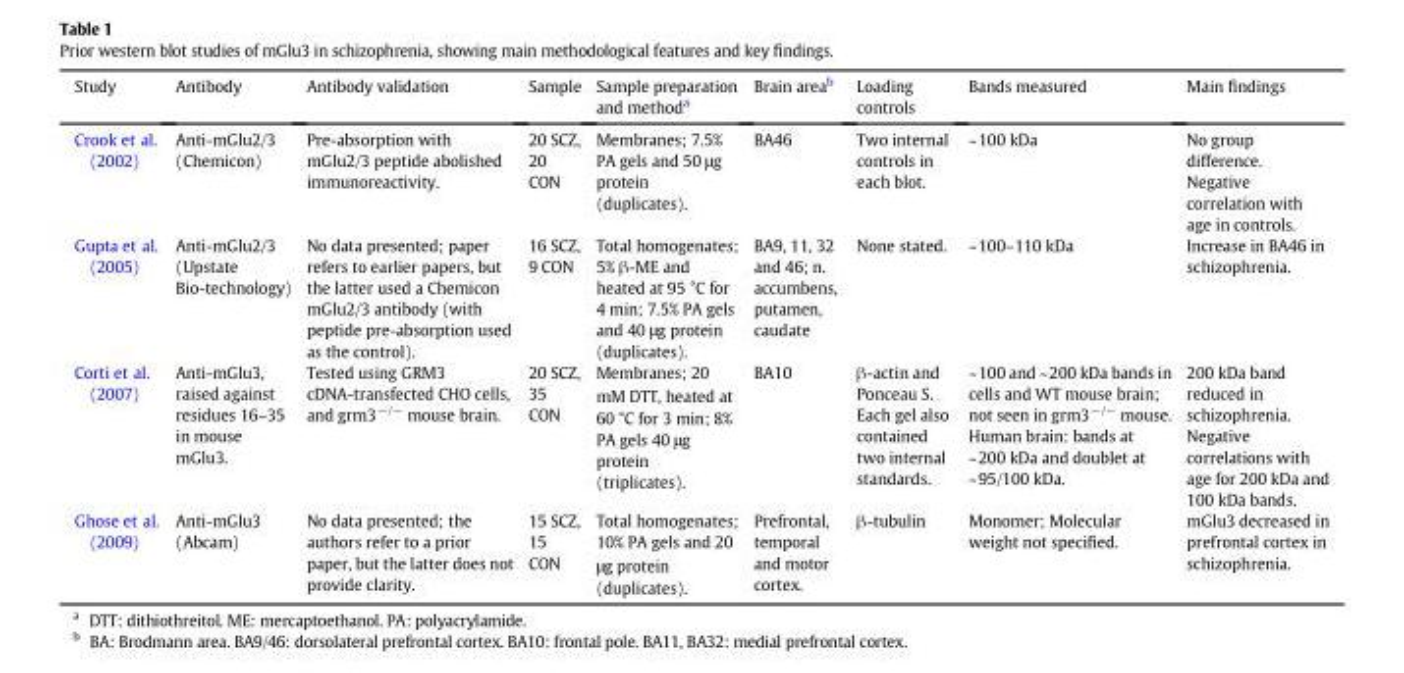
<table><thead><tr><td>Study</td><td>Antibody</td><td>Antibody validation</td><td>Sample</td><td>Sample preparation and method<sup>a</sup></td><td>Brain area<sup>b</sup></td><td>Loading controls</td><td>Bands measured</td><td>Main findings</td></tr></thead><tbody><tr><td>Crook et al. (2002)</td><td>Anti-mGlu2/3 (Chemicon)</td><td>Pre-absorption with mGlu2/3 peptide abolished immunoreactivity.</td><td>20 SCZ, 20 CON</td><td>Membranes; 7.5% PA gels and 50 μg protein (duplicates).</td><td>BA46</td><td>Two internal controls in each blot.</td><td>~100 kDa</td><td>No group difference. Negative correlation with age in controls.</td></tr><tr><td>Gupta et al. (2005)</td><td>Anti-mGlu2/3 (Upstate Bio-technology)</td><td>No data presented; paper refers to earlier papers, but the latter used a Chemicon mGlu2/3 antibody (with peptide pre-absorption used as the control).</td><td>16 SCZ, 9 CON</td><td>Total homogenates; 5% β-ME and heated at 95 °C for 4 min; 7.5% PA gels and 40 μg protein (duplicates).</td><td>BA9, 11, 32 and 46; n. accumbens, putamen, caudate</td><td>None stated.</td><td>~100–110 kDa</td><td>Increase in BA46 in schizophrenia.</td></tr><tr><td>Corti et al. (2007)</td><td>Anti-mGlu3, raised against residues 16–35 in mouse mGlu3.</td><td>Tested using GRM3 cDNA-transfected CHO cells, and grm3<sup>−/−</sup> mouse brain.</td><td>20 SCZ, 35 CON</td><td>Membranes; 20 mM DTT, heated at 60 °C for 3 min; 8% PA gels 40 μg protein (triplicates).</td><td>BA10</td><td>β-actin and Ponceau S. Each gel also contained two internal standards.</td><td>~100 and ~200 kDa bands in cells and WT mouse brain; not seen in grm3<sup>−/−</sup> mouse. Human brain: bands at ~200 kDa and doublet at ~95/100 kDa.</td><td>200 kDa band reduced in schizophrenia. Negative correlations with age for 200 kDa and 100 kDa bands.</td></tr><tr><td>Ghose et al. (2009)</td><td>Anti-mGlu3 (Abcam)</td><td>No data presented; the authors refer to a prior paper, but the latter does not provide clarity.</td><td>15 SCZ, 15 CON</td><td>Total homogenates; 10% PA gels and 20 μg protein (duplicates).</td><td>Prefrontal, temporal and motor cortex.</td><td>β-tubulin</td><td>Monomer; Molecular weight not specified.</td><td>mGlu3 decreased in prefrontal cortex in schizophrenia.</td></tr></tbody></table>